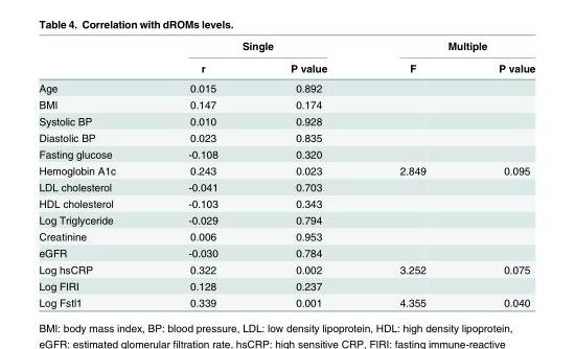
<table><thead><tr><td rowspan="2"></td><td colspan="2">Single</td><td colspan="2">Multiple</td></tr><tr><td>r</td><td>P value</td><td>F</td><td>P value</td></tr></thead><tbody><tr><td>Age</td><td>0.015</td><td>0.892</td><td></td><td></td></tr><tr><td>BMI</td><td>0.147</td><td>0.174</td><td></td><td></td></tr><tr><td>Systolic BP</td><td>0.010</td><td>0.928</td><td></td><td></td></tr><tr><td>Diastolic BP</td><td>0.023</td><td>0.835</td><td></td><td></td></tr><tr><td>Fasting glucose</td><td>-0.108</td><td>0.320</td><td></td><td></td></tr><tr><td>Hemoglobin A1c</td><td>0.243</td><td>0.023</td><td>2.849</td><td>0.095</td></tr><tr><td>LDL cholesterol</td><td>-0.041</td><td>0.703</td><td></td><td></td></tr><tr><td>HDL cholesterol</td><td>-0.103</td><td>0.343</td><td></td><td></td></tr><tr><td>Log Triglyceride</td><td>-0.029</td><td>0.794</td><td></td><td></td></tr><tr><td>Creatinine</td><td>0.006</td><td>0.953</td><td></td><td></td></tr><tr><td>eGFR</td><td>-0.030</td><td>0.784</td><td></td><td></td></tr><tr><td>Log hsCRP</td><td>0.322</td><td>0.002</td><td>3.252</td><td>0.075</td></tr><tr><td>Log FIRI</td><td>0.128</td><td>0.237</td><td></td><td></td></tr><tr><td>Log Fstl1</td><td>0.339</td><td>0.001</td><td>4.355</td><td>0.040</td></tr></tbody></table>